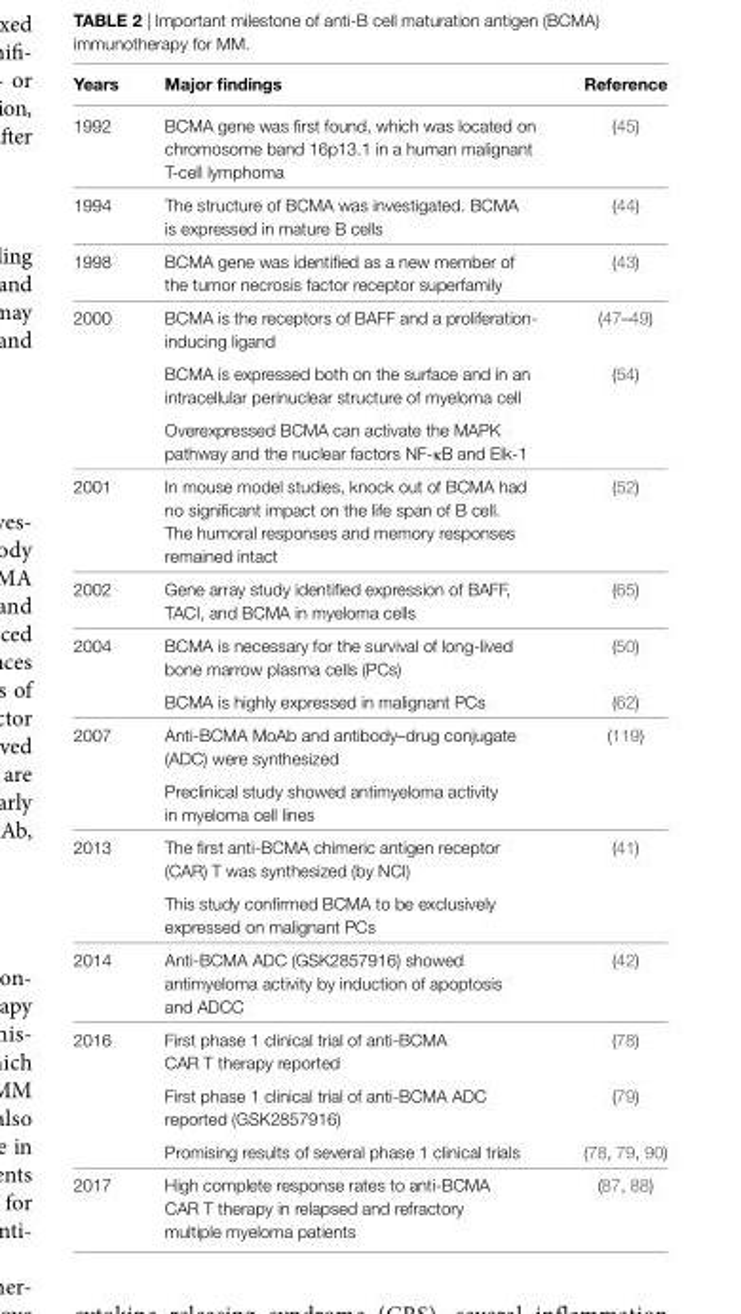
<table><thead><tr><td>Years</td><td>Major findings</td><td>Reference</td></tr></thead><tbody><tr><td>1992</td><td>BCMA gene was first found, which was located on chromosome band 16p13.1 in a human malignant T-cell lymphoma</td><td>(45)</td></tr><tr><td>1994</td><td>The structure of BCMA was investigated. BCMA is expressed in mature B cells</td><td>(44)</td></tr><tr><td>1998</td><td>BCMA gene was identified as a new member of the tumor necrosis factor receptor superfamily</td><td>(43)</td></tr><tr><td rowspan="3">2000</td><td>BCMA is the receptors of BAFF and a proliferation- inducing ligand</td><td>(47–49)</td></tr><tr><td>BCMA is expressed both on the surface and in an intracellular perinuclear structure of myeloma cell</td><td rowspan="2">(54)</td></tr><tr><td>Overexpressed BCMA can activate the MAPK pathway and the nuclear factors NF-κB and Elk-1</td></tr><tr><td>2001</td><td>In mouse model studies, knock out of BCMA had no significant impact on the life span of B cell. The humoral responses and memory responses remained intact</td><td>(52)</td></tr><tr><td>2002</td><td>Gene array study identified expression of BAFF, TACI, and BCMA in myeloma cells</td><td>(65)</td></tr><tr><td rowspan="2">2004</td><td>BCMA is necessary for the survival of long-lived bone marrow plasma cells (PCs)</td><td>(50)</td></tr><tr><td>BCMA is highly expressed in malignant PCs</td><td>(62)</td></tr><tr><td rowspan="2">2007</td><td>Anti-BCMA MoAb and antibody–drug conjugate (ADC) were synthesized</td><td rowspan="2">(119)</td></tr><tr><td>Preclinical study showed antimyeloma activity in myeloma cell lines</td></tr><tr><td rowspan="2">2013</td><td>The first anti-BCMA chimeric antigen receptor (CAR) T was synthesized (by NCI)</td><td rowspan="2">(41)</td></tr><tr><td>This study confirmed BCMA to be exclusively expressed on malignant PCs</td></tr><tr><td>2014</td><td>Anti-BCMA ADC (GSK2857916) showed antimyeloma activity by induction of apoptosis and ADCC</td><td>(42)</td></tr><tr><td rowspan="3">2016</td><td>First phase 1 clinical trial of anti-BCMA CAR T therapy reported</td><td>(78)</td></tr><tr><td>First phase 1 clinical trial of anti-BCMA ADC reported (GSK2857916)</td><td>(79)</td></tr><tr><td>Promising results of several phase 1 clinical trials</td><td>(78, 79, 90)</td></tr><tr><td>2017</td><td>High complete response rates to anti-BCMA CAR T therapy in relapsed and refractory multiple myeloma patients</td><td>(87, 88)</td></tr></tbody></table>